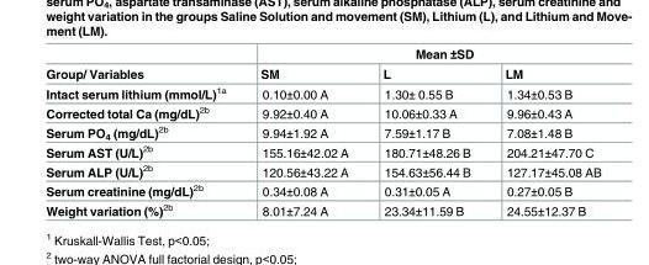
<table><thead><tr><td rowspan="2">Group/ Variables</td><td colspan="3">Mean ±SD</td></tr><tr><td>SM</td><td>L</td><td>LM</td></tr></thead><tbody><tr><td>Intact serum lithium (mmol/L)<sup>1a</sup></td><td>0.10±0.00 A</td><td>1.30± 0.55 B</td><td>1.34±0.53 B</td></tr><tr><td>Corrected total Ca (mg/dL)<sup>2b</sup></td><td>9.92±0.40 A</td><td>10.06±0.33 A</td><td>9.96±0.43 A</td></tr><tr><td>Serum PO<sub>4</sub> (mg/dL)<sup>2b</sup></td><td>9.94±1.92 A</td><td>7.59±1.17 B</td><td>7.08±1.48 B</td></tr><tr><td>Serum AST (U/L)<sup>2b</sup></td><td>155.16±42.02 A</td><td>180.71±48.26 B</td><td>204.21±47.70 C</td></tr><tr><td>Serum ALP (U/L)<sup>2b</sup></td><td>120.56±43.22 A</td><td>154.63±56.44 B</td><td>127.17±45.08 AB</td></tr><tr><td>Serum creatinine (mg/dL)<sup>2b</sup></td><td>0.34±0.08 A</td><td>0.31±0.05 A</td><td>0.27±0.05 B</td></tr><tr><td>Weight variation (%)<sup>2b</sup></td><td>8.01±7.24 A</td><td>23.34±11.59 B</td><td>24.55±12.37 B</td></tr></tbody></table>